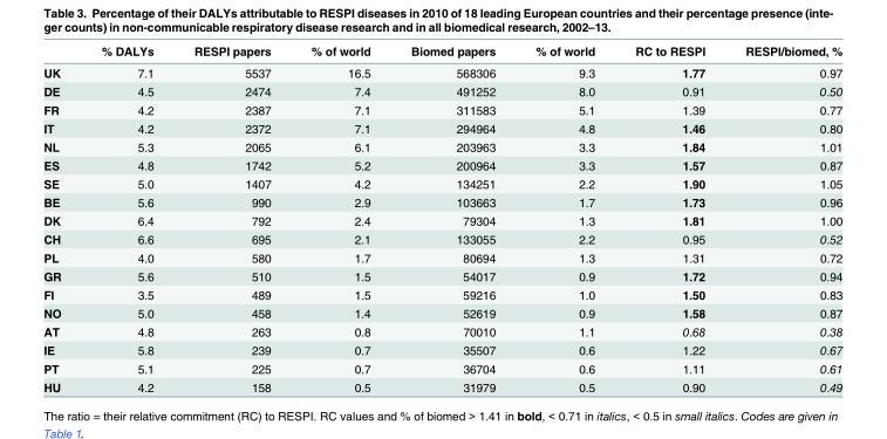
<table><thead><tr><td></td><td>% DALYs</td><td>RESPI papers</td><td>% of world</td><td>Biomed papers</td><td>% of world</td><td>RC to RESPI</td><td>RESPI/biomed, %</td></tr></thead><tbody><tr><td>UK</td><td>7.1</td><td>5537</td><td>16.5</td><td>568306</td><td>9.3</td><td>1.77</td><td>0.97</td></tr><tr><td>DE</td><td>4.5</td><td>2474</td><td>7.4</td><td>491252</td><td>8.0</td><td>0.91</td><td>0.50</td></tr><tr><td>FR</td><td>4.2</td><td>2387</td><td>7.1</td><td>311583</td><td>5.1</td><td>1.39</td><td>0.77</td></tr><tr><td>IT</td><td>4.2</td><td>2372</td><td>7.1</td><td>294964</td><td>4.8</td><td>1.46</td><td>0.80</td></tr><tr><td>NL</td><td>5.3</td><td>2065</td><td>6.1</td><td>203963</td><td>3.3</td><td>1.84</td><td>1.01</td></tr><tr><td>ES</td><td>4.8</td><td>1742</td><td>5.2</td><td>200964</td><td>3.3</td><td>1.57</td><td>0.87</td></tr><tr><td>SE</td><td>5.0</td><td>1407</td><td>4.2</td><td>134251</td><td>2.2</td><td>1.90</td><td>1.05</td></tr><tr><td>BE</td><td>5.6</td><td>990</td><td>2.9</td><td>103663</td><td>1.7</td><td>1.73</td><td>0.96</td></tr><tr><td>DK</td><td>6.4</td><td>792</td><td>2.4</td><td>79304</td><td>1.3</td><td>1.81</td><td>1.00</td></tr><tr><td>CH</td><td>6.6</td><td>695</td><td>2.1</td><td>133055</td><td>2.2</td><td>0.95</td><td>0.52</td></tr><tr><td>PL</td><td>4.0</td><td>580</td><td>1.7</td><td>80694</td><td>1.3</td><td>1.31</td><td>0.72</td></tr><tr><td>GR</td><td>5.6</td><td>510</td><td>1.5</td><td>54017</td><td>0.9</td><td>1.72</td><td>0.94</td></tr><tr><td>FI</td><td>3.5</td><td>489</td><td>1.5</td><td>59216</td><td>1.0</td><td>1.50</td><td>0.83</td></tr><tr><td>NO</td><td>5.0</td><td>458</td><td>1.4</td><td>52619</td><td>0.9</td><td>1.58</td><td>0.87</td></tr><tr><td>AT</td><td>4.8</td><td>263</td><td>0.8</td><td>70010</td><td>1.1</td><td>0.68</td><td>0.38</td></tr><tr><td>IE</td><td>5.8</td><td>239</td><td>0.7</td><td>35507</td><td>0.6</td><td>1.22</td><td>0.67</td></tr><tr><td>PT</td><td>5.1</td><td>225</td><td>0.7</td><td>36704</td><td>0.6</td><td>1.11</td><td>0.61</td></tr><tr><td>HU</td><td>4.2</td><td>158</td><td>0.5</td><td>31979</td><td>0.5</td><td>0.90</td><td>0.49</td></tr></tbody></table>